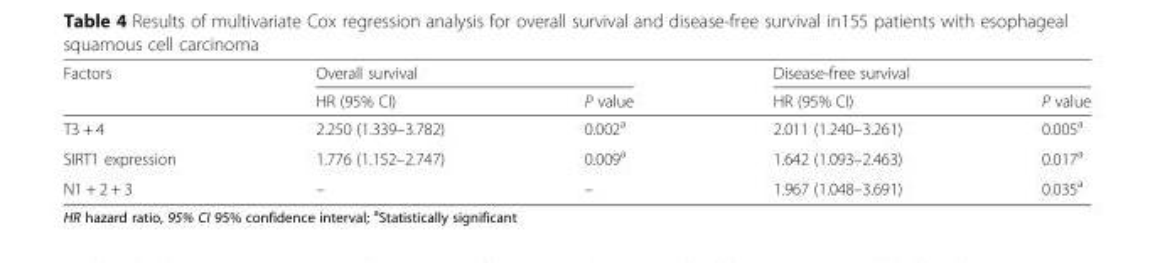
<table><thead><tr><td rowspan="2">Factors</td><td colspan="2">Overall survival</td><td colspan="2">Disease-free survival</td></tr><tr><td>HR (95% CI)</td><td>P value</td><td>HR (95% CI)</td><td>P value</td></tr></thead><tbody><tr><td>T3 + 4</td><td>2.250 (1.339–3.782)</td><td>0.002<sup>a</sup></td><td>2.011 (1.240–3.261)</td><td>0.005<sup>a</sup></td></tr><tr><td>SIRT1 expression</td><td>1.776 (1.152–2.747)</td><td>0.009<sup>a</sup></td><td>1.642 (1.093–2.463)</td><td>0.017<sup>a</sup></td></tr><tr><td>N1 + 2 + 3</td><td>–</td><td>–</td><td>1.967 (1.048–3.691)</td><td>0.035<sup>a</sup></td></tr></tbody></table>